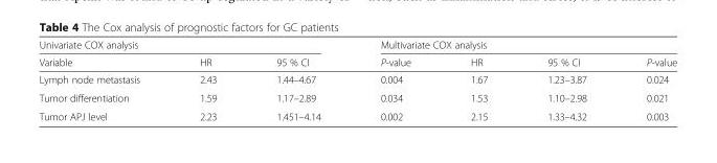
<table><thead><tr><td colspan="3">Univariate COX analysis</td><td colspan="4">Multivariate COX analysis</td></tr><tr><td>Variable</td><td>HR</td><td>95 % CI</td><td>P-value</td><td>HR</td><td>95 % CI</td><td>P-value</td></tr></thead><tbody><tr><td>Lymph node metastasis</td><td>2.43</td><td>1.44–4.67</td><td>0.004</td><td>1.67</td><td>1.23–3.87</td><td>0.024</td></tr><tr><td>Tumor differentiation</td><td>1.59</td><td>1.17–2.89</td><td>0.034</td><td>1.53</td><td>1.10–2.98</td><td>0.021</td></tr><tr><td>Tumor APJ level</td><td>2.23</td><td>1.451–4.14</td><td>0.002</td><td>2.15</td><td>1.33–4.32</td><td>0.003</td></tr></tbody></table>